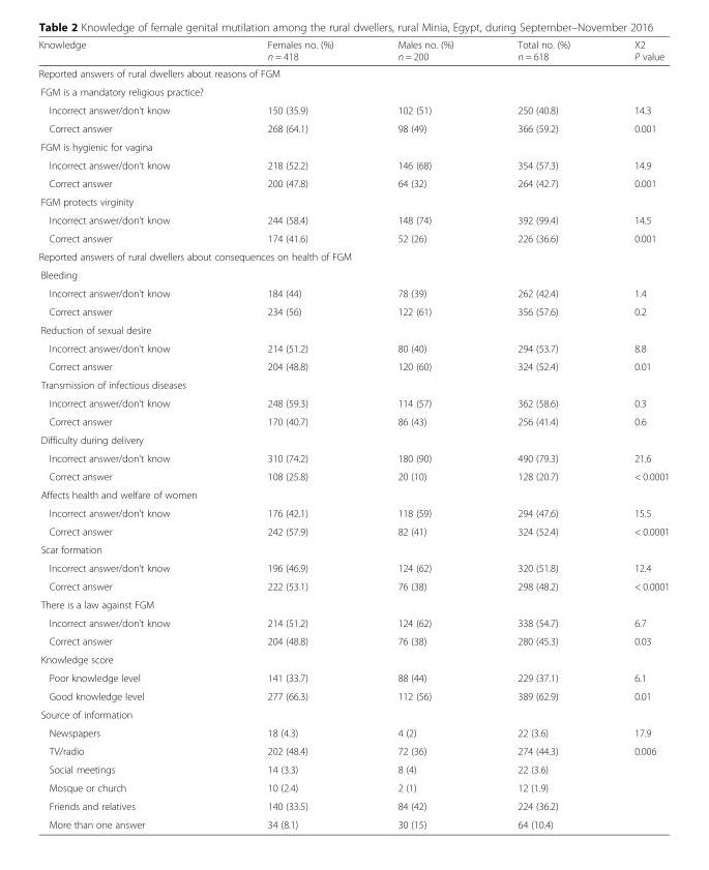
<table><thead><tr><td>Knowledge</td><td>Females no. (%) n = 418</td><td>Males no. (%) n = 200</td><td>Total no. (%) n = 618</td><td>X2 P value</td></tr></thead><tbody><tr><td colspan="5">Reported answers of rural dwellers about reasons of FGM</td></tr><tr><td colspan="5">FGM is a mandatory religious practice?</td></tr><tr><td>Incorrect answer/don’t know</td><td>150 (35.9)</td><td>102 (51)</td><td>250 (40.8)</td><td>14.3</td></tr><tr><td>Correct answer</td><td>268 (64.1)</td><td>98 (49)</td><td>366 (59.2)</td><td>0.001</td></tr><tr><td colspan="5">FGM is hygienic for vagina</td></tr><tr><td>Incorrect answer/don’t know</td><td>218 (52.2)</td><td>146 (68)</td><td>354 (57.3)</td><td>14.9</td></tr><tr><td>Correct answer</td><td>200 (47.8)</td><td>64 (32)</td><td>264 (42.7)</td><td>0.001</td></tr><tr><td colspan="5">FGM protects virginity</td></tr><tr><td>Incorrect answer/don’t know</td><td>244 (58.4)</td><td>148 (74)</td><td>392 (99.4)</td><td>14.5</td></tr><tr><td>Correct answer</td><td>174 (41.6)</td><td>52 (26)</td><td>226 (36.6)</td><td>0.001</td></tr><tr><td colspan="5">Reported answers of rural dwellers about consequences on health of FGM</td></tr><tr><td colspan="5">Bleeding</td></tr><tr><td>Incorrect answer/don’t know</td><td>184 (44)</td><td>78 (39)</td><td>262 (42.4)</td><td>1.4</td></tr><tr><td>Correct answer</td><td>234 (56)</td><td>122 (61)</td><td>356 (57.6)</td><td>0.2</td></tr><tr><td colspan="5">Reduction of sexual desire</td></tr><tr><td>Incorrect answer/don’t know</td><td>214 (51.2)</td><td>80 (40)</td><td>294 (53.7)</td><td>8.8</td></tr><tr><td>Correct answer</td><td>204 (48.8)</td><td>120 (60)</td><td>324 (52.4)</td><td>0.01</td></tr><tr><td colspan="5">Transmission of infectious diseases</td></tr><tr><td>Incorrect answer/don’t know</td><td>248 (59.3)</td><td>114 (57)</td><td>362 (58.6)</td><td>0.3</td></tr><tr><td>Correct answer</td><td>170 (40.7)</td><td>86 (43)</td><td>256 (41.4)</td><td>0.6</td></tr><tr><td colspan="5">Difficulty during delivery</td></tr><tr><td>Incorrect answer/don’t know</td><td>310 (74.2)</td><td>180 (90)</td><td>490 (79.3)</td><td>21.6</td></tr><tr><td>Correct answer</td><td>108 (25.8)</td><td>20 (10)</td><td>128 (20.7)</td><td>&lt; 0.0001</td></tr><tr><td colspan="5">Affects health and welfare of women</td></tr><tr><td>Incorrect answer/don’t know</td><td>176 (42.1)</td><td>118 (59)</td><td>294 (47.6)</td><td>15.5</td></tr><tr><td>Correct answer</td><td>242 (57.9)</td><td>82 (41)</td><td>324 (52.4)</td><td>&lt; 0.0001</td></tr><tr><td colspan="5">Scar formation</td></tr><tr><td>Incorrect answer/don’t know</td><td>196 (46.9)</td><td>124 (62)</td><td>320 (51.8)</td><td>12.4</td></tr><tr><td>Correct answer</td><td>222 (53.1)</td><td>76 (38)</td><td>298 (48.2)</td><td>&lt; 0.0001</td></tr><tr><td colspan="5">There is a law against FGM</td></tr><tr><td>Incorrect answer/don’t know</td><td>214 (51.2)</td><td>124 (62)</td><td>338 (54.7)</td><td>6.7</td></tr><tr><td>Correct answer</td><td>204 (48.8)</td><td>76 (38)</td><td>280 (45.3)</td><td>0.03</td></tr><tr><td colspan="5">Knowledge score</td></tr><tr><td>Poor knowledge level</td><td>141 (33.7)</td><td>88 (44)</td><td>229 (37.1)</td><td>6.1</td></tr><tr><td>Good knowledge level</td><td>277 (66.3)</td><td>112 (56)</td><td>389 (62.9)</td><td>0.01</td></tr><tr><td colspan="5">Source of information</td></tr><tr><td>Newspapers</td><td>18 (4.3)</td><td>4 (2)</td><td>22 (3.6)</td><td>17.9</td></tr><tr><td>TV/radio</td><td>202 (48.4)</td><td>72 (36)</td><td>274 (44.3)</td><td>0.006</td></tr><tr><td>Social meetings</td><td>14 (3.3)</td><td>8 (4)</td><td>22 (3.6)</td><td></td></tr><tr><td>Mosque or church</td><td>10 (2.4)</td><td>2 (1)</td><td>12 (1.9)</td><td></td></tr><tr><td>Friends and relatives</td><td>140 (33.5)</td><td>84 (42)</td><td>224 (36.2)</td><td></td></tr><tr><td>More than one answer</td><td>34 (8.1)</td><td>30 (15)</td><td>64 (10.4)</td><td></td></tr></tbody></table>